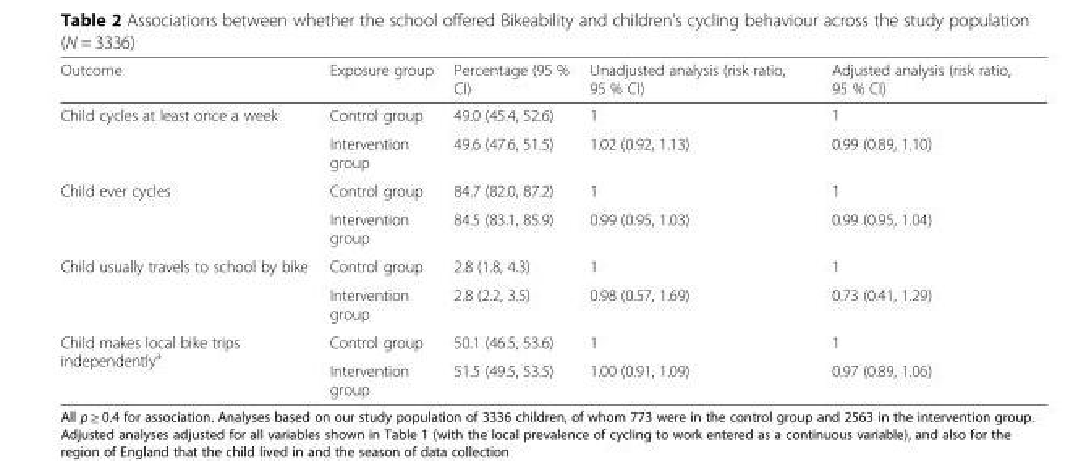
<table><thead><tr><td>Outcome</td><td>Exposure group</td><td>Percentage (95 % CI)</td><td>Unadjusted analysis (risk ratio, 95 % CI)</td><td>Adjusted analysis (risk ratio, 95 % CI)</td></tr></thead><tbody><tr><td rowspan="2">Child cycles at least once a week</td><td>Control group</td><td>49.0 (45.4, 52.6)</td><td>1</td><td>1</td></tr><tr><td>Intervention group</td><td>49.6 (47.6, 51.5)</td><td>1.02 (0.92, 1.13)</td><td>0.99 (0.89, 1.10)</td></tr><tr><td rowspan="2">Child ever cycles</td><td>Control group</td><td>84.7 (82.0, 87.2)</td><td>1</td><td>1</td></tr><tr><td>Intervention group</td><td>84.5 (83.1, 85.9)</td><td>0.99 (0.95, 1.03)</td><td>0.99 (0.95, 1.04)</td></tr><tr><td rowspan="2">Child usually travels to school by bike</td><td>Control group</td><td>2.8 (1.8, 4.3)</td><td>1</td><td>1</td></tr><tr><td>Intervention group</td><td>2.8 (2.2, 3.5)</td><td>0.98 (0.57, 1.69)</td><td>0.73 (0.41, 1.29)</td></tr><tr><td rowspan="2">Child makes local bike trips independently<sup>a</sup></td><td>Control group</td><td>50.1 (46.5, 53.6)</td><td>1</td><td>1</td></tr><tr><td>Intervention group</td><td>51.5 (49.5, 53.5)</td><td>1.00 (0.91, 1.09)</td><td>0.97 (0.89, 1.06)</td></tr></tbody></table>